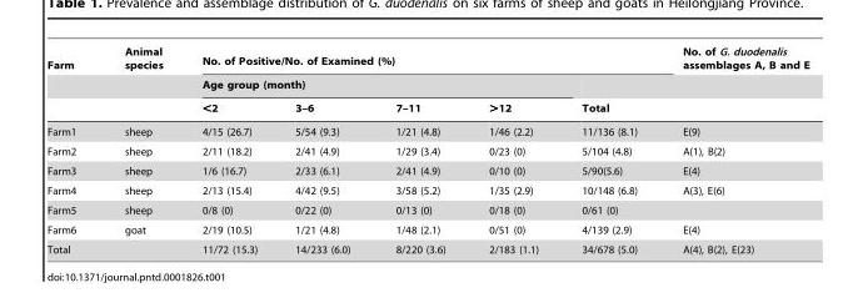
<table><thead><tr><td rowspan="3">Farm</td><td rowspan="3">Animal species</td><td colspan="5">No. of Positive/No. of Examined (%)</td><td rowspan="3">No. of G. duodenalis assemblages A, B and E</td></tr><tr><td colspan="4">Age group (month)</td><td rowspan="2">Total</td></tr><tr><td>&lt;2</td><td>3–6</td><td>7–11</td><td>&gt;12</td></tr></thead><tbody><tr><td>Farm1</td><td>sheep</td><td>4/15 (26.7)</td><td>5/54 (9.3)</td><td>1/21 (4.8)</td><td>1/46 (2.2)</td><td>11/136 (8.1)</td><td>E(9)</td></tr><tr><td>Farm2</td><td>sheep</td><td>2/11 (18.2)</td><td>2/41 (4.9)</td><td>1/29 (3.4)</td><td>0/23 (0)</td><td>5/104 (4.8)</td><td>A(1), B(2)</td></tr><tr><td>Farm3</td><td>sheep</td><td>1/6 (16.7)</td><td>2/33 (6.1)</td><td>2/41 (4.9)</td><td>0/10 (0)</td><td>5/90(5.6)</td><td>E(4)</td></tr><tr><td>Farm4</td><td>sheep</td><td>2/13 (15.4)</td><td>4/42 (9.5)</td><td>3/58 (5.2)</td><td>1/35 (2.9)</td><td>10/148 (6.8)</td><td>A(3), E(6)</td></tr><tr><td>Farm5</td><td>sheep</td><td>0/8 (0)</td><td>0/22 (0)</td><td>0/13 (0)</td><td>0/18 (0)</td><td>0/61 (0)</td><td></td></tr><tr><td>Farm6</td><td>goat</td><td>2/19 (10.5)</td><td>1/21 (4.8)</td><td>1/48 (2.1)</td><td>0/51 (0)</td><td>4/139 (2.9)</td><td>E(4)</td></tr><tr><td>Total</td><td></td><td>11/72 (15.3)</td><td>14/233 (6.0)</td><td>8/220 (3.6)</td><td>2/183 (1.1)</td><td>34/678 (5.0)</td><td>A(4), B(2), E(23)</td></tr></tbody></table>